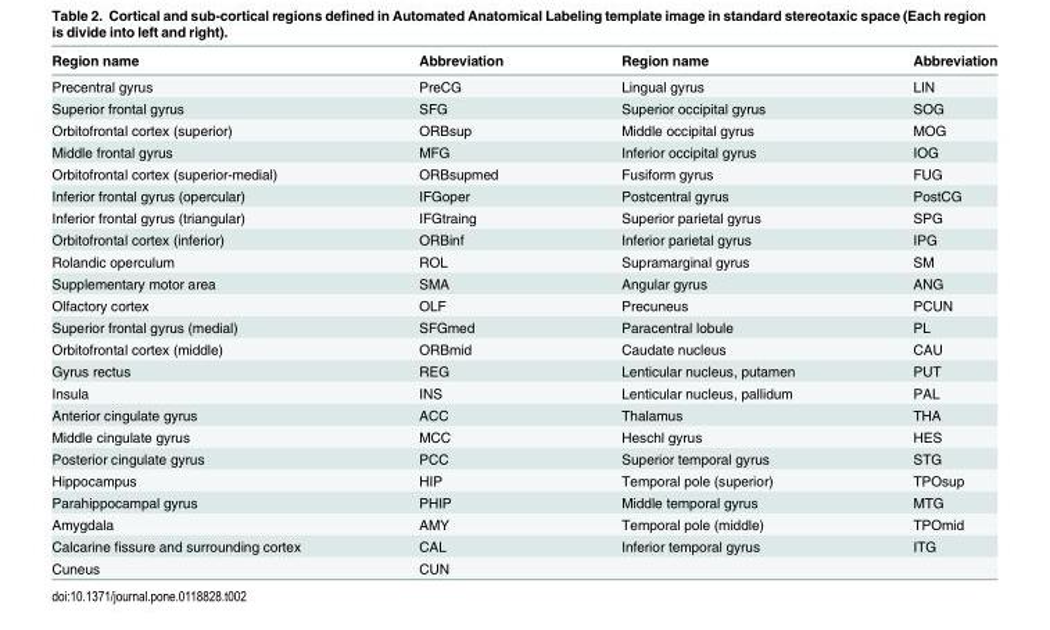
<table><thead><tr><td>Region name</td><td>Abbreviation</td><td>Region name</td><td>Abbreviation</td></tr></thead><tbody><tr><td>Precentral gyrus</td><td>PreCG</td><td>Lingual gyrus</td><td>LIN</td></tr><tr><td>Superior frontal gyrus</td><td>SFG</td><td>Superior occipital gyrus</td><td>SOG</td></tr><tr><td>Orbitofrontal cortex (superior)</td><td>ORBsup</td><td>Middle occipital gyrus</td><td>MOG</td></tr><tr><td>Middle frontal gyrus</td><td>MFG</td><td>Inferior occipital gyrus</td><td>IOG</td></tr><tr><td>Orbitofrontal cortex (superior-medial)</td><td>ORBsupmed</td><td>Fusiform gyrus</td><td>FUG</td></tr><tr><td>Inferior frontal gyrus (opercular)</td><td>IFGoper</td><td>Postcentral gyrus</td><td>PostCG</td></tr><tr><td>Inferior frontal gyrus (triangular)</td><td>IFGtraing</td><td>Superior parietal gyrus</td><td>SPG</td></tr><tr><td>Orbitofrontal cortex (inferior)</td><td>ORBinf</td><td>Inferior parietal gyrus</td><td>IPG</td></tr><tr><td>Rolandic operculum</td><td>ROL</td><td>Supramarginal gyrus</td><td>SM</td></tr><tr><td>Supplementary motor area</td><td>SMA</td><td>Angular gyrus</td><td>ANG</td></tr><tr><td>Olfactory cortex</td><td>OLF</td><td>Precuneus</td><td>PCUN</td></tr><tr><td>Superior frontal gyrus (medial)</td><td>SFGmed</td><td>Paracentral lobule</td><td>PL</td></tr><tr><td>Orbitofrontal cortex (middle)</td><td>ORBmid</td><td>Caudate nucleus</td><td>CAU</td></tr><tr><td>Gyrus rectus</td><td>REG</td><td>Lenticular nucleus, putamen</td><td>PUT</td></tr><tr><td>Insula</td><td>INS</td><td>Lenticular nucleus, pallidum</td><td>PAL</td></tr><tr><td>Anterior cingulate gyrus</td><td>ACC</td><td>Thalamus</td><td>THA</td></tr><tr><td>Middle cingulate gyrus</td><td>MCC</td><td>Heschl gyrus</td><td>HES</td></tr><tr><td>Posterior cingulate gyrus</td><td>PCC</td><td>Superior temporal gyrus</td><td>STG</td></tr><tr><td>Hippocampus</td><td>HIP</td><td>Temporal pole (superior)</td><td>TPOsup</td></tr><tr><td>Parahippocampal gyrus</td><td>PHIP</td><td>Middle temporal gyrus</td><td>MTG</td></tr><tr><td>Amygdala</td><td>AMY</td><td>Temporal pole (middle)</td><td>TPOmid</td></tr><tr><td>Calcarine fissure and surrounding cortex</td><td>CAL</td><td>Inferior temporal gyrus</td><td>ITG</td></tr><tr><td>Cuneus</td><td>CUN</td><td></td><td></td></tr></tbody></table>